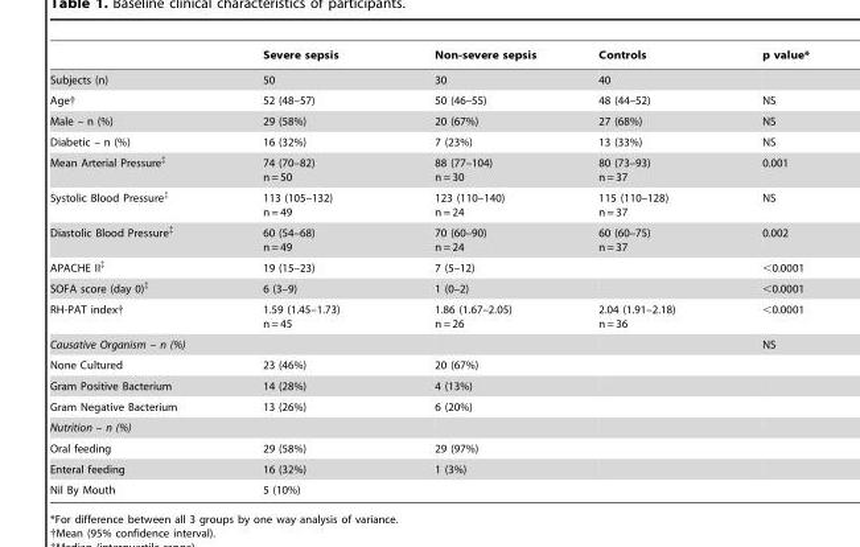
<table><thead><tr><td></td><td>Severe sepsis</td><td>Non-severe sepsis</td><td>Controls</td><td>p value*</td></tr></thead><tbody><tr><td>Subjects (n)</td><td>50</td><td>30</td><td>40</td><td></td></tr><tr><td>Age†</td><td>52 (48–57)</td><td>50 (46–55)</td><td>48 (44–52)</td><td>NS</td></tr><tr><td>Male – n (%)</td><td>29 (58%)</td><td>20 (67%)</td><td>27 (68%)</td><td>NS</td></tr><tr><td>Diabetic – n (%)</td><td>16 (32%)</td><td>7 (23%)</td><td>13 (33%)</td><td>NS</td></tr><tr><td>Mean Arterial Pressure‡</td><td>74 (70–82) n = 50</td><td>88 (77–104) n = 30</td><td>80 (73–93) n = 37</td><td>0.001</td></tr><tr><td>Systolic Blood Pressure‡</td><td>113 (105–132) n = 49</td><td>123 (110–140) n = 24</td><td>115 (110–128) n = 37</td><td>NS</td></tr><tr><td>Diastolic Blood Pressure‡</td><td>60 (54–68) n = 49</td><td>70 (60–90) n = 24</td><td>60 (60–75) n = 37</td><td>0.002</td></tr><tr><td>APACHE II‡</td><td>19 (15–23)</td><td>7 (5–12)</td><td></td><td>&lt;0.0001</td></tr><tr><td>SOFA score (day 0)‡</td><td>6 (3–9)</td><td>1 (0–2)</td><td></td><td>&lt;0.0001</td></tr><tr><td>RH-PAT index†</td><td>1.59 (1.45–1.73) n = 45</td><td>1.86 (1.67–2.05) n = 26</td><td>2.04 (1.91–2.18) n = 36</td><td>&lt;0.0001</td></tr><tr><td>Causative Organism – n (%)</td><td></td><td></td><td></td><td>NS</td></tr><tr><td>None Cultured</td><td>23 (46%)</td><td>20 (67%)</td><td></td><td></td></tr><tr><td>Gram Positive Bacterium</td><td>14 (28%)</td><td>4 (13%)</td><td></td><td></td></tr><tr><td>Gram Negative Bacterium</td><td>13 (26%)</td><td>6 (20%)</td><td></td><td></td></tr><tr><td colspan="5">Nutrition – n (%)</td></tr><tr><td>Oral feeding</td><td>29 (58%)</td><td>29 (97%)</td><td></td><td></td></tr><tr><td>Enteral feeding</td><td>16 (32%)</td><td>1 (3%)</td><td></td><td></td></tr><tr><td>Nil By Mouth</td><td>5 (10%)</td><td></td><td></td><td></td></tr></tbody></table>